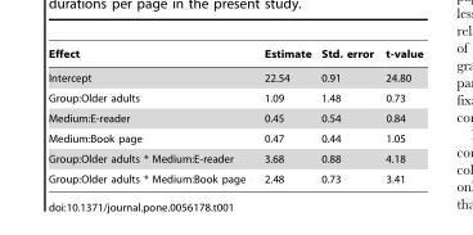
<table><thead><tr><td>Effect</td><td>Estimate</td><td>Std. error</td><td>t-value</td></tr></thead><tbody><tr><td>Intercept</td><td>22.54</td><td>0.91</td><td>24.80</td></tr><tr><td>Group:Older adults</td><td>1.09</td><td>1.48</td><td>0.73</td></tr><tr><td>Medium:E-reader</td><td>0.45</td><td>0.54</td><td>0.84</td></tr><tr><td>Medium:Book page</td><td>0.47</td><td>0.44</td><td>1.05</td></tr><tr><td>Group:Older adults * Medium:E-reader</td><td>3.68</td><td>0.88</td><td>4.18</td></tr><tr><td>Group:Older adults * Medium:Book page</td><td>2.48</td><td>0.73</td><td>3.41</td></tr></tbody></table>